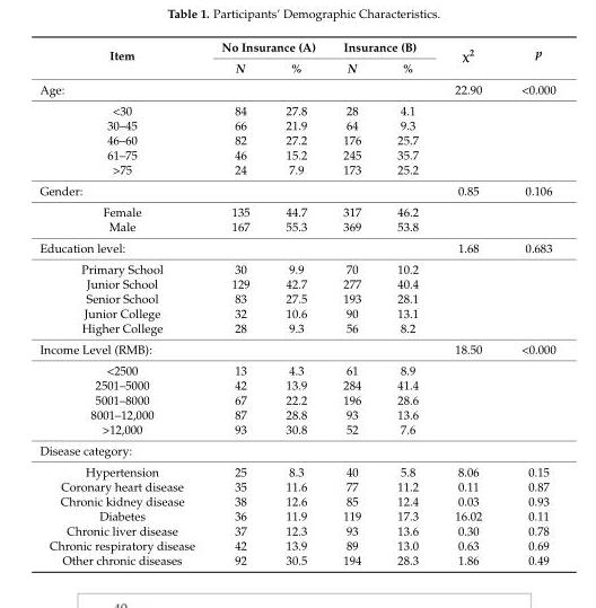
<table><thead><tr><td rowspan="2">Item</td><td colspan="2">No Insurance (A)</td><td colspan="2">Insurance (B)</td><td rowspan="2">χ<sup>2</sup></td><td rowspan="2">p</td></tr><tr><td>N</td><td>%</td><td>N</td><td>%</td></tr></thead><tbody><tr><td colspan="5">Age:</td><td>22.90</td><td>&lt;0.000</td></tr><tr><td>&lt;30</td><td>84</td><td>27.8</td><td>28</td><td>4.1</td><td></td><td></td></tr><tr><td>30–45</td><td>66</td><td>21.9</td><td>64</td><td>9.3</td><td></td><td></td></tr><tr><td>46–60</td><td>82</td><td>27.2</td><td>176</td><td>25.7</td><td></td><td></td></tr><tr><td>61–75</td><td>46</td><td>15.2</td><td>245</td><td>35.7</td><td></td><td></td></tr><tr><td>&gt;75</td><td>24</td><td>7.9</td><td>173</td><td>25.2</td><td></td><td></td></tr><tr><td colspan="5">Gender:</td><td>0.85</td><td>0.106</td></tr><tr><td>Female</td><td>135</td><td>44.7</td><td>317</td><td>46.2</td><td></td><td></td></tr><tr><td>Male</td><td>167</td><td>55.3</td><td>369</td><td>53.8</td><td></td><td></td></tr><tr><td colspan="5">Education level:</td><td>1.68</td><td>0.683</td></tr><tr><td>Primary School</td><td>30</td><td>9.9</td><td>70</td><td>10.2</td><td></td><td></td></tr><tr><td>Junior School</td><td>129</td><td>42.7</td><td>277</td><td>40.4</td><td></td><td></td></tr><tr><td>Senior School</td><td>83</td><td>27.5</td><td>193</td><td>28.1</td><td></td><td></td></tr><tr><td>Junior College</td><td>32</td><td>10.6</td><td>90</td><td>13.1</td><td></td><td></td></tr><tr><td>Higher College</td><td>28</td><td>9.3</td><td>56</td><td>8.2</td><td></td><td></td></tr><tr><td colspan="5">Income Level (RMB):</td><td>18.50</td><td>&lt;0.000</td></tr><tr><td>&lt;2500</td><td>13</td><td>4.3</td><td>61</td><td>8.9</td><td></td><td></td></tr><tr><td>2501–5000</td><td>42</td><td>13.9</td><td>284</td><td>41.4</td><td></td><td></td></tr><tr><td>5001–8000</td><td>67</td><td>22.2</td><td>196</td><td>28.6</td><td></td><td></td></tr><tr><td>8001–12,000</td><td>87</td><td>28.8</td><td>93</td><td>13.6</td><td></td><td></td></tr><tr><td>&gt;12,000</td><td>93</td><td>30.8</td><td>52</td><td>7.6</td><td></td><td></td></tr><tr><td colspan="7">Disease category:</td></tr><tr><td>Hypertension</td><td>25</td><td>8.3</td><td>40</td><td>5.8</td><td>8.06</td><td>0.15</td></tr><tr><td>Coronary heart disease</td><td>35</td><td>11.6</td><td>77</td><td>11.2</td><td>0.11</td><td>0.87</td></tr><tr><td>Chronic kidney disease</td><td>38</td><td>12.6</td><td>85</td><td>12.4</td><td>0.03</td><td>0.93</td></tr><tr><td>Diabetes</td><td>36</td><td>11.9</td><td>119</td><td>17.3</td><td>16.02</td><td>0.11</td></tr><tr><td>Chronic liver disease</td><td>37</td><td>12.3</td><td>93</td><td>13.6</td><td>0.30</td><td>0.78</td></tr><tr><td>Chronic respiratory disease</td><td>42</td><td>13.9</td><td>89</td><td>13.0</td><td>0.63</td><td>0.69</td></tr><tr><td>Other chronic diseases</td><td>92</td><td>30.5</td><td>194</td><td>28.3</td><td>1.86</td><td>0.49</td></tr></tbody></table>